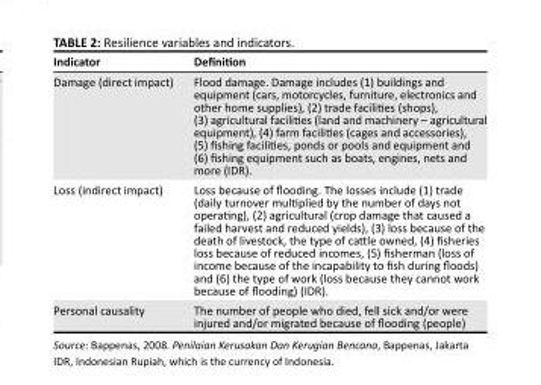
<table><thead><tr><td>Indicator</td><td>Definition</td></tr></thead><tbody><tr><td>Damage (direct impact)</td><td>Flood damage. Damage includes (1) buildings and equipment (cars, motorcycles, furniture, electronics and other home supplies), (2) trade facilities (shops), (3) agricultural facilities (land and machinery – agricultural equipment), (4) farm facilities (cages and accessories), (5) fishing facilities, ponds or pools and equipment and (6) fishing equipment such as boats, engines, nets and more (IDR).</td></tr><tr><td>Loss (indirect impact)</td><td>Loss because of flooding. The losses include (1) trade (daily turnover multiplied by the number of days not operating), (2) agricultural (crop damage that caused a failed harvest and reduced yields), (3) loss because of the death of livestock, the type of cattle owned, (4) fisheries loss because of reduced incomes, (5) fisherman (loss of income because of the incapability to fish during floods) and (6) the type of work (loss because they cannot work because of flooding) (IDR).</td></tr><tr><td>Personal causality</td><td>The number of people who died, fell sick and/or were injured and/or migrated because of flooding (people)</td></tr></tbody></table>